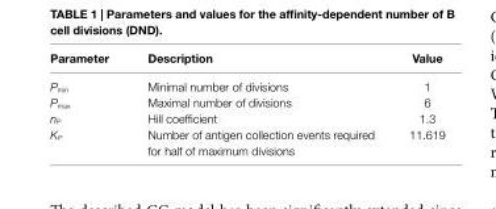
<table><thead><tr><td>Parameter</td><td>Description</td><td>Value</td></tr></thead><tbody><tr><td>P<sub>min</sub></td><td>Minimal number of divisions</td><td>1</td></tr><tr><td>P<sub>max</sub></td><td>Maximal number of divisions</td><td>6</td></tr><tr><td>n<sub>P</sub></td><td>Hill coefficient</td><td>1.3</td></tr><tr><td>K<sub>P</sub></td><td>Number of antigen collection events required for half of maximum divisions</td><td>11.619</td></tr></tbody></table>